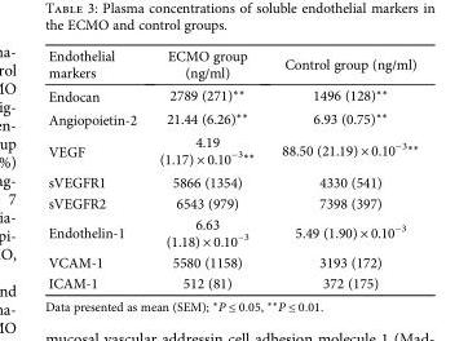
<table><thead><tr><td>Endothelial markers</td><td>ECMO group (ng/ml)</td><td>Control group (ng/ml)</td></tr></thead><tbody><tr><td>Endocan</td><td>2789 (271)∗∗</td><td>1496 (128)∗∗</td></tr><tr><td>Angiopoietin-2</td><td>21.44 (6.26)∗∗</td><td>6.93 (0.75)∗∗</td></tr><tr><td>VEGF</td><td>4.19 (1.17) × 0.10<sup>−3∗∗</sup></td><td>88.50 (21.19) × 0.10<sup>−3∗∗</sup></td></tr><tr><td>sVEGFR1</td><td>5866 (1354)</td><td>4330 (541)</td></tr><tr><td>sVEGFR2</td><td>6543 (979)</td><td>7398 (397)</td></tr><tr><td>Endothelin-1</td><td>6.63 (1.18) × 0.10<sup>−3</sup></td><td>5.49 (1.90) × 0.10<sup>−3</sup></td></tr><tr><td>VCAM-1</td><td>5580 (1158)</td><td>3193 (172)</td></tr><tr><td>ICAM-1</td><td>512 (81)</td><td>372 (175)</td></tr></tbody></table>